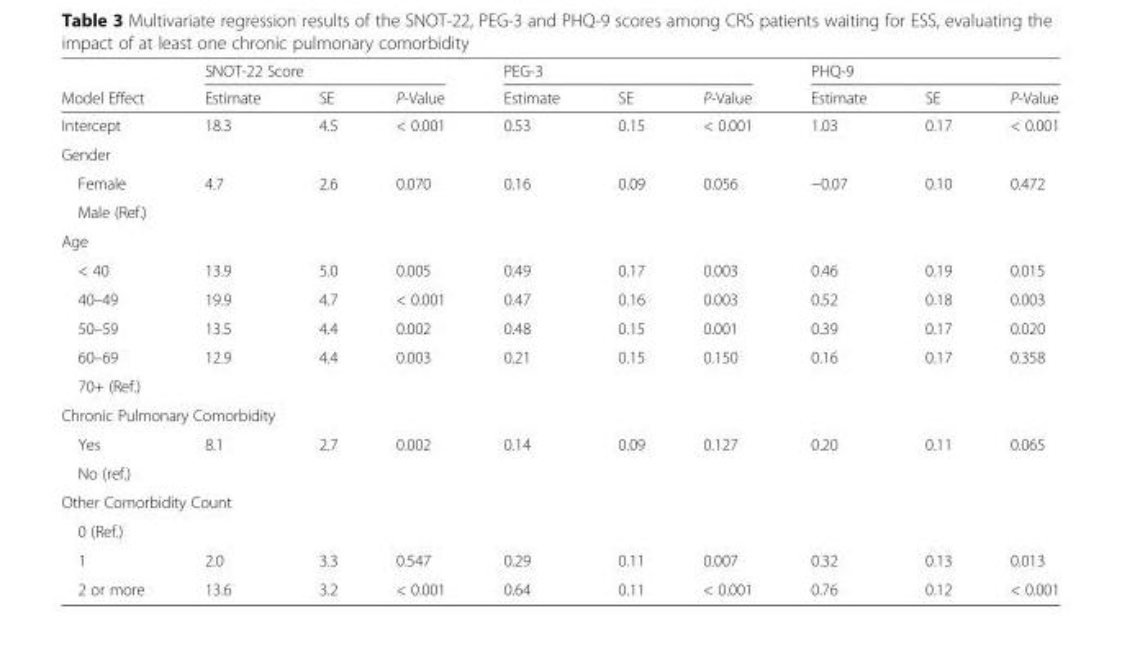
<table><thead><tr><td rowspan="2">Model Effect</td><td colspan="3">SNOT-22 Score</td><td colspan="3">PEG-3</td><td colspan="3">PHQ-9</td></tr><tr><td>Estimate</td><td>SE</td><td>P-Value</td><td>Estimate</td><td>SE</td><td>P-Value</td><td>Estimate</td><td>SE</td><td>P-Value</td></tr></thead><tbody><tr><td>Intercept</td><td>18.3</td><td>4.5</td><td>&lt; 0.001</td><td>0.53</td><td>0.15</td><td>&lt; 0.001</td><td>1.03</td><td>0.17</td><td>&lt; 0.001</td></tr><tr><td colspan="10">Gender</td></tr><tr><td>Female</td><td>4.7</td><td>2.6</td><td>0.070</td><td>0.16</td><td>0.09</td><td>0.056</td><td>−0.07</td><td>0.10</td><td>0.472</td></tr><tr><td colspan="10">Male (Ref.)</td></tr><tr><td colspan="10">Age</td></tr><tr><td>&lt; 40</td><td>13.9</td><td>5.0</td><td>0.005</td><td>0.49</td><td>0.17</td><td>0.003</td><td>0.46</td><td>0.19</td><td>0.015</td></tr><tr><td>40–49</td><td>19.9</td><td>4.7</td><td>&lt; 0.001</td><td>0.47</td><td>0.16</td><td>0.003</td><td>0.52</td><td>0.18</td><td>0.003</td></tr><tr><td>50–59</td><td>13.5</td><td>4.4</td><td>0.002</td><td>0.48</td><td>0.15</td><td>0.001</td><td>0.39</td><td>0.17</td><td>0.020</td></tr><tr><td>60–69</td><td>12.9</td><td>4.4</td><td>0.003</td><td>0.21</td><td>0.15</td><td>0.150</td><td>0.16</td><td>0.17</td><td>0.358</td></tr><tr><td colspan="10">70+ (Ref.)</td></tr><tr><td colspan="10">Chronic Pulmonary Comorbidity</td></tr><tr><td>Yes</td><td>8.1</td><td>2.7</td><td>0.002</td><td>0.14</td><td>0.09</td><td>0.127</td><td>0.20</td><td>0.11</td><td>0.065</td></tr><tr><td colspan="10">No (ref.)</td></tr><tr><td colspan="10">Other Comorbidity Count</td></tr><tr><td colspan="10">0 (Ref.)</td></tr><tr><td>1</td><td>2.0</td><td>3.3</td><td>0.547</td><td>0.29</td><td>0.11</td><td>0.007</td><td>0.32</td><td>0.13</td><td>0.013</td></tr><tr><td>2 or more</td><td>13.6</td><td>3.2</td><td>&lt; 0.001</td><td>0.64</td><td>0.11</td><td>&lt; 0.001</td><td>0.76</td><td>0.12</td><td>&lt; 0.001</td></tr></tbody></table>